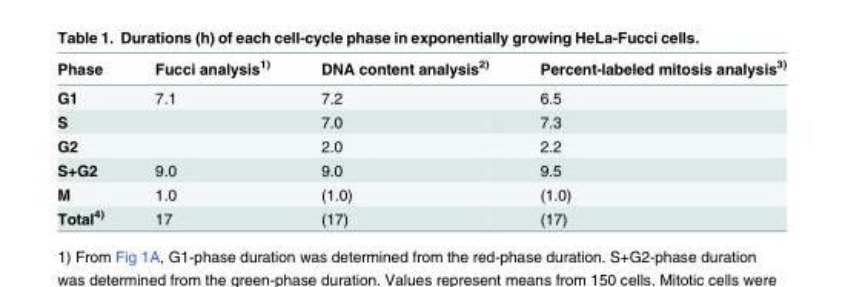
<table><thead><tr><td>Phase</td><td>Fucci analysis<sup>1)</sup></td><td>DNA content analysis<sup>2)</sup></td><td>Percent-labeled mitosis analysis<sup>3)</sup></td></tr></thead><tbody><tr><td>G1</td><td>7.1</td><td>7.2</td><td>6.5</td></tr><tr><td>S</td><td></td><td>7.0</td><td>7.3</td></tr><tr><td>G2</td><td></td><td>2.0</td><td>2.2</td></tr><tr><td>S+G2</td><td>9.0</td><td>9.0</td><td>9.5</td></tr><tr><td>M</td><td>1.0</td><td>(1.0)</td><td>(1.0)</td></tr><tr><td>Total<sup>4)</sup></td><td>17</td><td>(17)</td><td>(17)</td></tr></tbody></table>